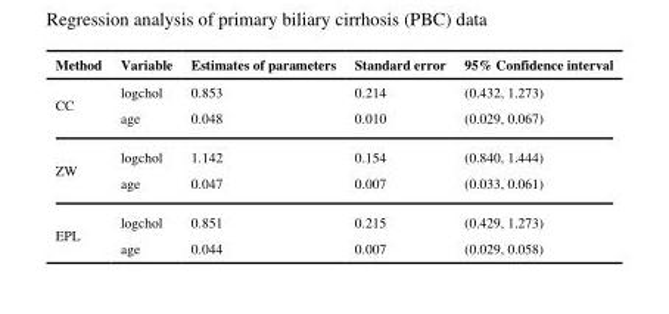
<table><thead><tr><td>Method</td><td>Variable</td><td>Estimates of parameters</td><td>Standard error</td><td>95% Confidence interval</td></tr></thead><tbody><tr><td rowspan="2">CC</td><td>logchol</td><td>0.853</td><td>0.214</td><td>(0.432, 1.273)</td></tr><tr><td>age</td><td>0.048</td><td>0.010</td><td>(0.029, 0.067)</td></tr><tr><td rowspan="2">ZW</td><td>logchol</td><td>1.142</td><td>0.154</td><td>(0.840, 1.444)</td></tr><tr><td>age</td><td>0.047</td><td>0.007</td><td>(0.033, 0.061)</td></tr><tr><td rowspan="2">EPL</td><td>logchol</td><td>0.851</td><td>0.215</td><td>(0.429, 1.273)</td></tr><tr><td>age</td><td>0.044</td><td>0.007</td><td>(0.029, 0.058)</td></tr></tbody></table>